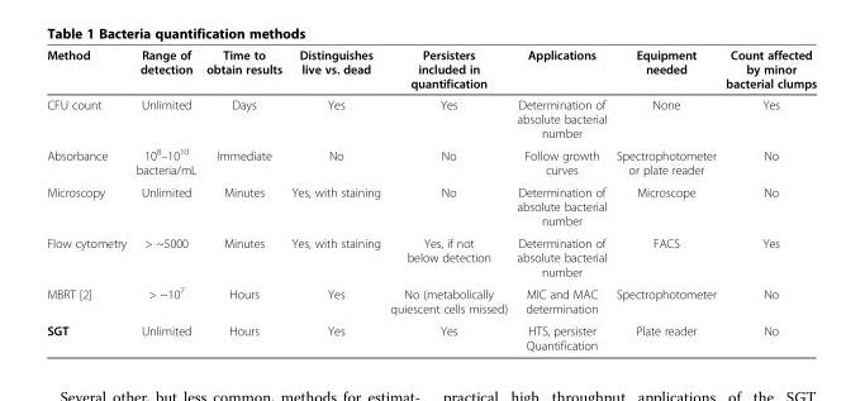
<table><thead><tr><td>Method</td><td>Range of detection</td><td>Time to obtain results</td><td>Distinguishes live vs. dead</td><td>Persisters included in quantification</td><td>Applications</td><td>Equipment needed</td><td>Count affected by minor bacterial clumps</td></tr></thead><tbody><tr><td>CFU count</td><td>Unlimited</td><td>Days</td><td>Yes</td><td>Yes</td><td>Determination of absolute bacterial number</td><td>None</td><td>Yes</td></tr><tr><td>Absorbance</td><td>10<sup>8</sup>–10<sup>10</sup> bacteria/mL</td><td>Immediate</td><td>No</td><td>No</td><td>Follow growth curves</td><td>Spectrophotometer or plate reader</td><td>No</td></tr><tr><td>Microscopy</td><td>Unlimited</td><td>Minutes</td><td>Yes, with staining</td><td>No</td><td>Determination of absolute bacterial number</td><td>Microscope</td><td>No</td></tr><tr><td>Flow cytometry</td><td>&gt; ~5000</td><td>Minutes</td><td>Yes, with staining</td><td>Yes, if not below detection</td><td>Determination of absolute bacterial number</td><td>FACS</td><td>Yes</td></tr><tr><td>MBRT [2]</td><td>&gt; ~10<sup>7</sup></td><td>Hours</td><td>Yes</td><td>No (metabolically quiescent cells missed)</td><td>MIC and MAC determination</td><td>Spectrophotometer</td><td>No</td></tr><tr><td>SGT</td><td>Unlimited</td><td>Hours</td><td>Yes</td><td>Yes</td><td>HTS, persister Quantification</td><td>Plate reader</td><td>No</td></tr></tbody></table>